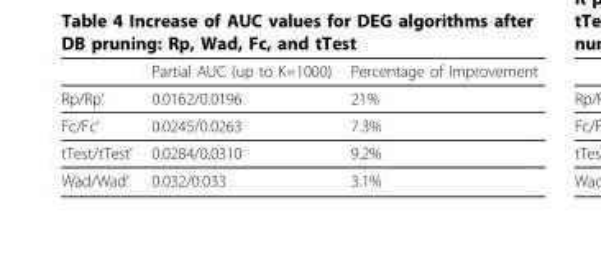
<table><thead><tr><td></td><td>Partial AUC (up to K=1000)</td><td>Percentage of Improvement</td></tr></thead><tbody><tr><td>Rp/Rp’</td><td>0.0162/0.0196</td><td>21%</td></tr><tr><td>Fc/Fc’</td><td>0.0245/0.0263</td><td>7.3%</td></tr><tr><td>tTest/tTest’</td><td>0.0284/0.0310</td><td>9.2%</td></tr><tr><td>Wad/Wad’</td><td>0.032/0.033</td><td>3.1%</td></tr></tbody></table>